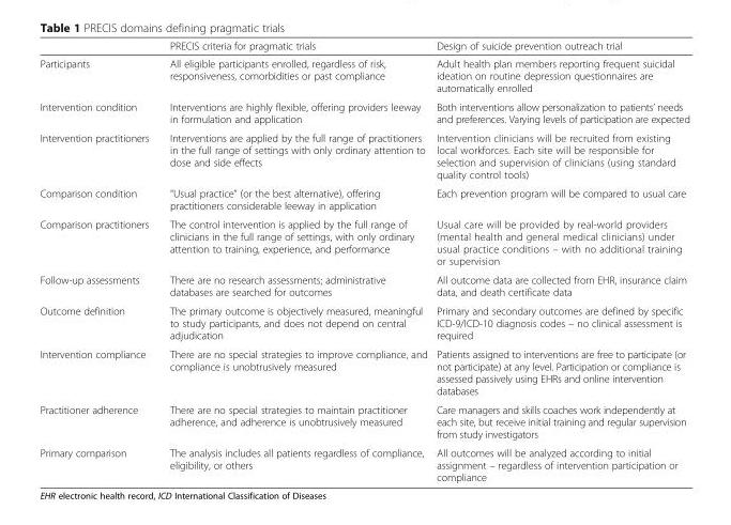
<table><thead><tr><td></td><td>PRECIS criteria for pragmatic trials</td><td>Design of suicide prevention outreach trial</td></tr></thead><tbody><tr><td>Participants</td><td>All eligible participants enrolled, regardless of risk, responsiveness, comorbidities or past compliance</td><td>Adult health plan members reporting frequent suicidal ideation on routine depression questionnaires are automatically enrolled</td></tr><tr><td>Intervention condition</td><td>Interventions are highly flexible, offering providers leeway in formulation and application</td><td>Both interventions allow personalization to patients’ needs and preferences. Varying levels of participation are expected</td></tr><tr><td>Intervention practitioners</td><td>Interventions are applied by the full range of practitioners in the full range of settings with only ordinary attention to dose and side effects</td><td>Intervention clinicians will be recruited from existing local workforces. Each site will be responsible for selection and supervision of clinicians (using standard quality control tools)</td></tr><tr><td>Comparison condition</td><td>“Usual practice” (or the best alternative), offering practitioners considerable leeway in application</td><td>Each prevention program will be compared to usual care</td></tr><tr><td>Comparison practitioners</td><td>The control intervention is applied by the full range of clinicians in the full range of settings, with only ordinary attention to training, experience, and performance</td><td>Usual care will be provided by real-world providers (mental health and general medical clinicians) under usual practice conditions – with no additional training or supervision</td></tr><tr><td>Follow-up assessments</td><td>There are no research assessments; administrative databases are searched for outcomes</td><td>All outcome data are collected from EHR, insurance claim data, and death certificate data</td></tr><tr><td>Outcome definition</td><td>The primary outcome is objectively measured, meaningful to study participants, and does not depend on central adjudication</td><td>Primary and secondary outcomes are defined by specific ICD-9/ICD-10 diagnosis codes – no clinical assessment is required</td></tr><tr><td>Intervention compliance</td><td>There are no special strategies to improve compliance, and compliance is unobtrusively measured</td><td>Patients assigned to interventions are free to participate (or not participate) at any level. Participation or compliance is assessed passively using EHRs and online intervention databases</td></tr><tr><td>Practitioner adherence</td><td>There are no special strategies to maintain practitioner adherence, and adherence is unobtrusively measured</td><td>Care managers and skills coaches work independently at each site, but receive initial training and regular supervision from study investigators</td></tr><tr><td>Primary comparison</td><td>The analysis includes all patients regardless of compliance, eligibility, or others</td><td>All outcomes will be analyzed according to initial assignment – regardless of intervention participation or compliance</td></tr></tbody></table>